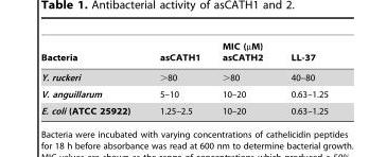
<table><thead><tr><td>Bacteria</td><td>asCATH1</td><td>MIC (µM) asCATH2</td><td>LL-37</td></tr></thead><tbody><tr><td>Y. ruckeri</td><td>&gt;80</td><td>&gt;80</td><td>40–80</td></tr><tr><td>V. anguillarum</td><td>5–10</td><td>10–20</td><td>0.63–1.25</td></tr><tr><td>E. coli (ATCC 25922)</td><td>1.25–2.5</td><td>10–20</td><td>0.63–1.25</td></tr></tbody></table>